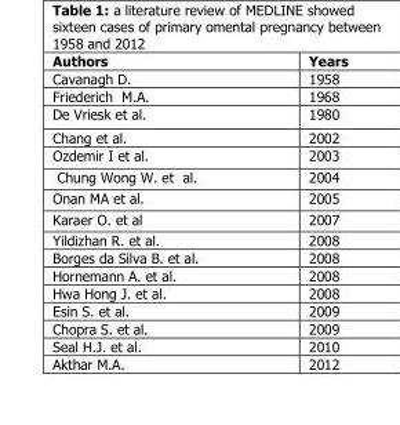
<table><thead><tr><td>Authors</td><td>Years</td></tr></thead><tbody><tr><td>Cavanagh D.</td><td>1958</td></tr><tr><td>Friederich M.A.</td><td>1968</td></tr><tr><td>De Vriesk et al.</td><td>1980</td></tr><tr><td>Chang et al.</td><td>2002</td></tr><tr><td>Ozdemir I et al.</td><td>2003</td></tr><tr><td>Chung Wong W. et al.</td><td>2004</td></tr><tr><td>Onan MA et al.</td><td>2005</td></tr><tr><td>Karaer O. et al</td><td>2007</td></tr><tr><td>Yildizhan R. et al.</td><td>2008</td></tr><tr><td>Borges da Silva B. et al.</td><td>2008</td></tr><tr><td>Hornemann A. et al.</td><td>2008</td></tr><tr><td>Hwa Hong J. et al.</td><td>2008</td></tr><tr><td>Esin S. et al.</td><td>2009</td></tr><tr><td>Chopra S. et al.</td><td>2009</td></tr><tr><td>Seal H.J. et al.</td><td>2010</td></tr><tr><td>Akthar M.A.</td><td>2012</td></tr></tbody></table>